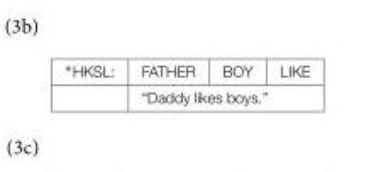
<table><tbody><tr><td rowspan="2">∗HKSL:</td><td>FATHER</td><td>BOY</td><td>LIKE</td></tr><tr><td colspan="3">“Daddy likes boys.”</td></tr></tbody></table>